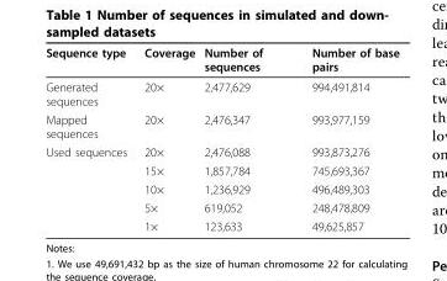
<table><thead><tr><td>Sequence type</td><td>Coverage</td><td>Number of sequences</td><td>Number of base pairs</td></tr></thead><tbody><tr><td>Generated sequences</td><td>20×</td><td>2,477,629</td><td>994,491,814</td></tr><tr><td>Mapped sequences</td><td>20×</td><td>2,476,347</td><td>993,977,159</td></tr><tr><td rowspan="5">Used sequences</td><td>20×</td><td>2,476,088</td><td>993,873,276</td></tr><tr><td>15×</td><td>1,857,784</td><td>745,693,367</td></tr><tr><td>10×</td><td>1,236,929</td><td>496,489,303</td></tr><tr><td>5×</td><td>619,052</td><td>248,478,809</td></tr><tr><td>1×</td><td>123,633</td><td>49,625,857</td></tr></tbody></table>